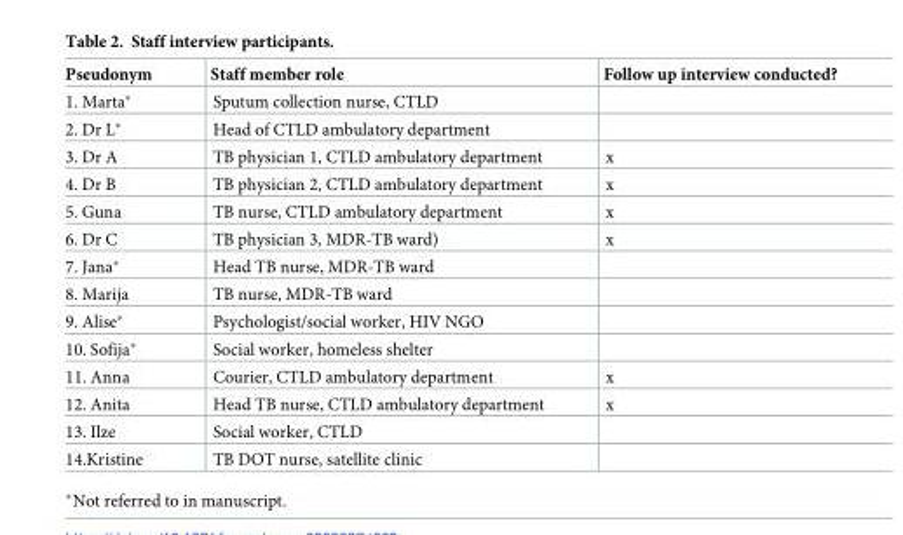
<table><thead><tr><td>Pseudonym</td><td>Staff member role</td><td>Follow up interview conducted?</td></tr></thead><tbody><tr><td>1. Marta*</td><td>Sputum collection nurse, CTLD</td><td></td></tr><tr><td>2. Dr L*</td><td>Head of CTLD ambulatory department</td><td></td></tr><tr><td>3. Dr A</td><td>TB physician 1, CTLD ambulatory department</td><td>x</td></tr><tr><td>4. Dr B</td><td>TB physician 2, CTLD ambulatory department</td><td>x</td></tr><tr><td>5. Guna</td><td>TB nurse, CTLD ambulatory department</td><td>x</td></tr><tr><td>6. Dr C</td><td>TB physician 3, MDR-TB ward)</td><td>x</td></tr><tr><td>7. Jana*</td><td>Head TB nurse, MDR-TB ward</td><td></td></tr><tr><td>8. Marija</td><td>TB nurse, MDR-TB ward</td><td></td></tr><tr><td>9. Alise*</td><td>Psychologist/social worker, HIV NGO</td><td></td></tr><tr><td>10. Sofija*</td><td>Social worker, homeless shelter</td><td></td></tr><tr><td>11. Anna</td><td>Courier, CTLD ambulatory department</td><td>x</td></tr><tr><td>12. Anita</td><td>Head TB nurse, CTLD ambulatory department</td><td>x</td></tr><tr><td>13. Ilze</td><td>Social worker, CTLD</td><td></td></tr><tr><td>14.Kristine</td><td>TB DOT nurse, satellite clinic</td><td></td></tr></tbody></table>